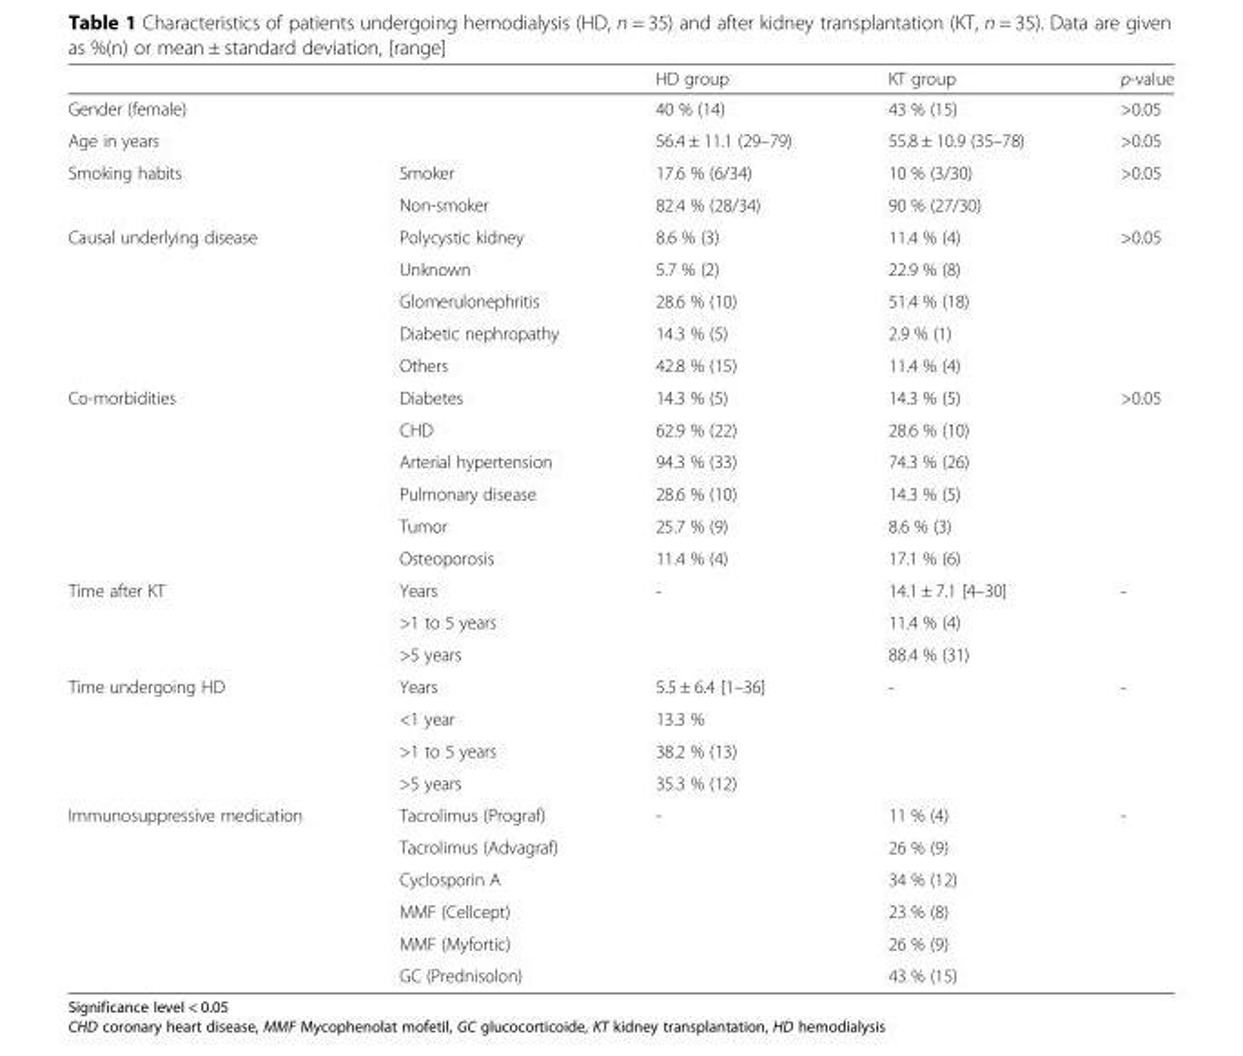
<table><thead><tr><td></td><td></td><td>HD group</td><td>KT group</td><td>p-value</td></tr></thead><tbody><tr><td colspan="2">Gender (female)</td><td>40 % (14)</td><td>43 % (15)</td><td>&gt;0.05</td></tr><tr><td colspan="2">Age in years</td><td>56.4 ± 11.1 (29–79)</td><td>55.8 ± 10.9 (35–78)</td><td>&gt;0.05</td></tr><tr><td rowspan="2">Smoking habits</td><td>Smoker</td><td>17.6 % (6/34)</td><td>10 % (3/30)</td><td rowspan="2">&gt;0.05</td></tr><tr><td>Non-smoker</td><td>82.4 % (28/34)</td><td>90 % (27/30)</td></tr><tr><td rowspan="5">Causal underlying disease</td><td>Polycystic kidney</td><td>8.6 % (3)</td><td>11.4 % (4)</td><td rowspan="5">&gt;0.05</td></tr><tr><td>Unknown</td><td>5.7 % (2)</td><td>22.9 % (8)</td></tr><tr><td>Glomerulonephritis</td><td>28.6 % (10)</td><td>51.4 % (18)</td></tr><tr><td>Diabetic nephropathy</td><td>14.3 % (5)</td><td>2.9 % (1)</td></tr><tr><td>Others</td><td>42.8 % (15)</td><td>11.4 % (4)</td></tr><tr><td rowspan="6">Co-morbidities</td><td>Diabetes</td><td>14.3 % (5)</td><td>14.3 % (5)</td><td rowspan="6">&gt;0.05</td></tr><tr><td>CHD</td><td>62.9 % (22)</td><td>28.6 % (10)</td></tr><tr><td>Arterial hypertension</td><td>94.3 % (33)</td><td>74.3 % (26)</td></tr><tr><td>Pulmonary disease</td><td>28.6 % (10)</td><td>14.3 % (5)</td></tr><tr><td>Tumor</td><td>25.7 % (9)</td><td>8.6 % (3)</td></tr><tr><td>Osteoporosis</td><td>11.4 % (4)</td><td>17.1 % (6)</td></tr><tr><td rowspan="3">Time after KT</td><td>Years</td><td rowspan="3">-</td><td>14.1 ± 7.1 [4–30]</td><td rowspan="3">-</td></tr><tr><td>&gt;1 to 5 years</td><td>11.4 % (4)</td></tr><tr><td>&gt;5 years</td><td>88.4 % (31)</td></tr><tr><td rowspan="4">Time undergoing HD</td><td>Years</td><td>5.5 ± 6.4 [1–36]</td><td rowspan="4">-</td><td rowspan="4">-</td></tr><tr><td>&lt;1 year</td><td>13.3 %</td></tr><tr><td>&gt;1 to 5 years</td><td>38.2 % (13)</td></tr><tr><td>&gt;5 years</td><td>35.3 % (12)</td></tr><tr><td rowspan="6">Immunosuppressive medication</td><td>Tacrolimus (Prograf)</td><td rowspan="6">-</td><td>11 % (4)</td><td rowspan="6">-</td></tr><tr><td>Tacrolimus (Advagraf)</td><td>26 % (9)</td></tr><tr><td>Cyclosporin A</td><td>34 % (12)</td></tr><tr><td>MMF (Cellcept)</td><td>23 % (8)</td></tr><tr><td>MMF (Myfortic)</td><td>26 % (9)</td></tr><tr><td>GC (Prednisolon)</td><td>43 % (15)</td></tr></tbody></table>